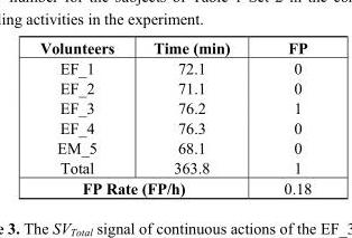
<table><thead><tr><td>Volunteers</td><td>Time (min)</td><td>FP</td></tr></thead><tbody><tr><td>EF_1</td><td>72.1</td><td>0</td></tr><tr><td>EF_2</td><td>71.1</td><td>0</td></tr><tr><td>EF_3</td><td>76.2</td><td>1</td></tr><tr><td>EF_4</td><td>76.3</td><td>0</td></tr><tr><td>EM_5</td><td>68.1</td><td>0</td></tr><tr><td>Total</td><td>363.8</td><td>1</td></tr><tr><td colspan="2">FP Rate (FP/h)</td><td>0.18</td></tr></tbody></table>